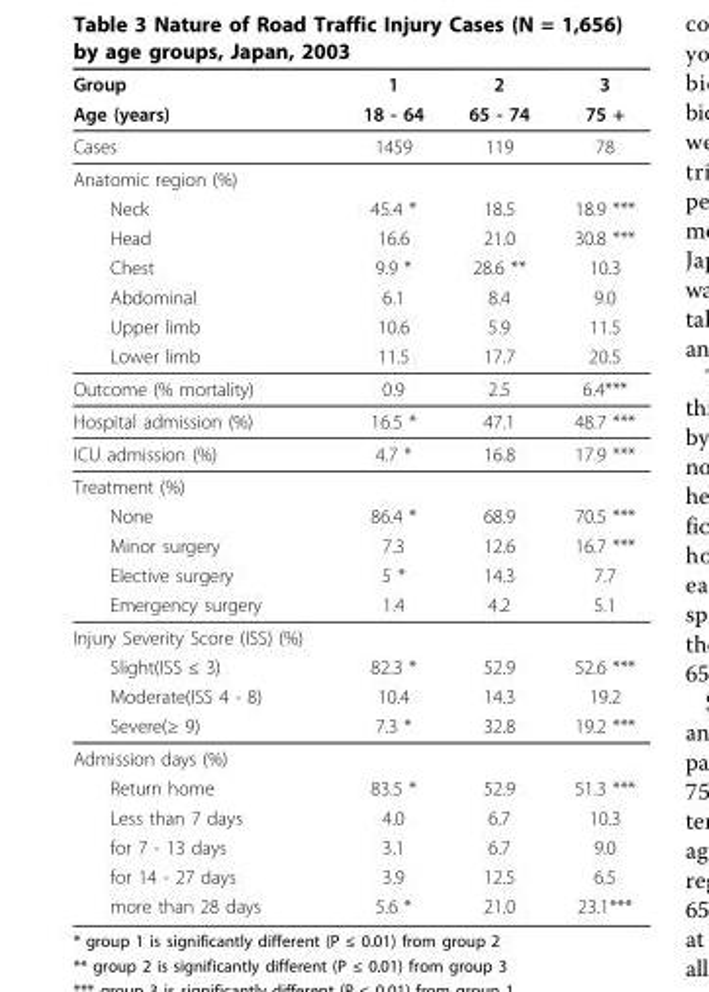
<table><thead><tr><td rowspan="2">Group Age (years)</td><td rowspan="2">1 18 - 64</td><td rowspan="2">2 65 - 74</td><td rowspan="2">3 75 +</td></tr><tr></tr></thead><tbody><tr><td>Cases</td><td>1459</td><td>119</td><td>78</td></tr><tr><td colspan="4">Anatomic region (%)</td></tr><tr><td>Neck</td><td>45.4 *</td><td>18.5</td><td>18.9 ***</td></tr><tr><td>Head</td><td>16.6</td><td>21.0</td><td>30.8 ***</td></tr><tr><td>Chest</td><td>9.9 *</td><td>28.6 **</td><td>10.3</td></tr><tr><td>Abdominal</td><td>6.1</td><td>8.4</td><td>9.0</td></tr><tr><td>Upper limb</td><td>10.6</td><td>5.9</td><td>11.5</td></tr><tr><td>Lower limb</td><td>11.5</td><td>17.7</td><td>20.5</td></tr><tr><td>Outcome (% mortality)</td><td>0.9</td><td>2.5</td><td>6.4***</td></tr><tr><td>Hospital admission (%)</td><td>16.5 *</td><td>47.1</td><td>48.7 ***</td></tr><tr><td>ICU admission (%)</td><td>4.7 *</td><td>16.8</td><td>17.9 ***</td></tr><tr><td colspan="4">Treatment (%)</td></tr><tr><td>None</td><td>86.4 *</td><td>68.9</td><td>70.5 ***</td></tr><tr><td>Minor surgery</td><td>7.3</td><td>12.6</td><td>16.7 ***</td></tr><tr><td>Elective surgery</td><td>5 *</td><td>14.3</td><td>7.7</td></tr><tr><td>Emergency surgery</td><td>1.4</td><td>4.2</td><td>5.1</td></tr><tr><td colspan="4">Injury Severity Score (ISS) (%)</td></tr><tr><td>Slight(ISS ≤ 3)</td><td>82.3 *</td><td>52.9</td><td>52.6 ***</td></tr><tr><td>Moderate(ISS 4 - 8)</td><td>10.4</td><td>14.3</td><td>19.2</td></tr><tr><td>Severe(≥ 9)</td><td>7.3 *</td><td>32.8</td><td>19.2 ***</td></tr><tr><td colspan="4">Admission days (%)</td></tr><tr><td>Return home</td><td>83.5 *</td><td>52.9</td><td>51.3 ***</td></tr><tr><td>Less than 7 days</td><td>4.0</td><td>6.7</td><td>10.3</td></tr><tr><td>for 7 - 13 days</td><td>3.1</td><td>6.7</td><td>9.0</td></tr><tr><td>for 14 - 27 days</td><td>3.9</td><td>12.5</td><td>6.5</td></tr><tr><td>more than 28 days</td><td>5.6 *</td><td>21.0</td><td>23.1***</td></tr></tbody></table>